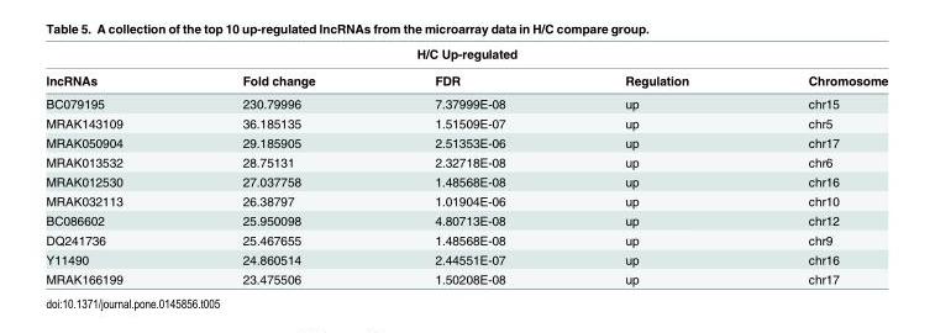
<table><thead><tr><td colspan="5">H/C Up-regulated</td></tr><tr><td>lncRNAs</td><td>Fold change</td><td>FDR</td><td>Regulation</td><td>Chromosome</td></tr></thead><tbody><tr><td>BC079195</td><td>230.79996</td><td>7.37999E-08</td><td>up</td><td>chr15</td></tr><tr><td>MRAK143109</td><td>36.185135</td><td>1.51509E-07</td><td>up</td><td>chr5</td></tr><tr><td>MRAK050904</td><td>29.185905</td><td>2.51353E-06</td><td>up</td><td>chr17</td></tr><tr><td>MRAK013532</td><td>28.75131</td><td>2.32718E-08</td><td>up</td><td>chr6</td></tr><tr><td>MRAK012530</td><td>27.037758</td><td>1.48568E-08</td><td>up</td><td>chr16</td></tr><tr><td>MRAK032113</td><td>26.38797</td><td>1.01904E-06</td><td>up</td><td>chr10</td></tr><tr><td>BC086602</td><td>25.950098</td><td>4.80713E-08</td><td>up</td><td>chr12</td></tr><tr><td>DQ241736</td><td>25.467655</td><td>1.48568E-08</td><td>up</td><td>chr9</td></tr><tr><td>Y11490</td><td>24.860514</td><td>2.44551E-07</td><td>up</td><td>chr16</td></tr><tr><td>MRAK166199</td><td>23.475506</td><td>1.50208E-08</td><td>up</td><td>chr17</td></tr></tbody></table>